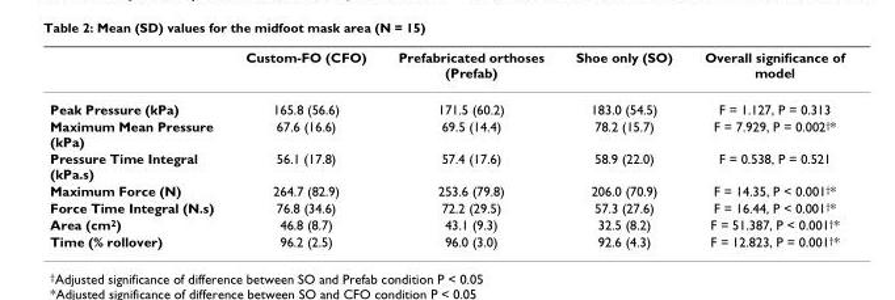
<table><thead><tr><td></td><td>Custom-FO (CFO)</td><td>Prefabricated orthoses (Prefab)</td><td>Shoe only (SO)</td><td>Overall significance of model</td></tr></thead><tbody><tr><td>Peak Pressure (kPa)</td><td>165.8 (56.6)</td><td>171.5 (60.2)</td><td>183.0 (54.5)</td><td>F = 1.127, P = 0.313</td></tr><tr><td>Maximum Mean Pressure (kPa)</td><td>67.6 (16.6)</td><td>69.5 (14.4)</td><td>78.2 (15.7)</td><td>F = 7.929, P = 0.002<sup>†</sup>*</td></tr><tr><td>Pressure Time Integral (kPa.s)</td><td>56.1 (17.8)</td><td>57.4 (17.6)</td><td>58.9 (22.0)</td><td>F = 0.538, P = 0.521</td></tr><tr><td>Maximum Force (N)</td><td>264.7 (82.9)</td><td>253.6 (79.8)</td><td>206.0 (70.9)</td><td>F = 14.35, P &lt; 0.001<sup>†</sup>*</td></tr><tr><td>Force Time Integral (N.s)</td><td>76.8 (34.6)</td><td>72.2 (29.5)</td><td>57.3 (27.6)</td><td>F = 16.44, P &lt; 0.001<sup>†</sup>*</td></tr><tr><td>Area (cm<sup>2</sup>)</td><td>46.8 (8.7)</td><td>43.1 (9.3)</td><td>32.5 (8.2)</td><td>F = 51.387, P &lt; 0.001<sup>†</sup>*</td></tr><tr><td>Time (% rollover)</td><td>96.2 (2.5)</td><td>96.0 (3.0)</td><td>92.6 (4.3)</td><td>F = 12.823, P = 0.001<sup>†</sup>*</td></tr></tbody></table>